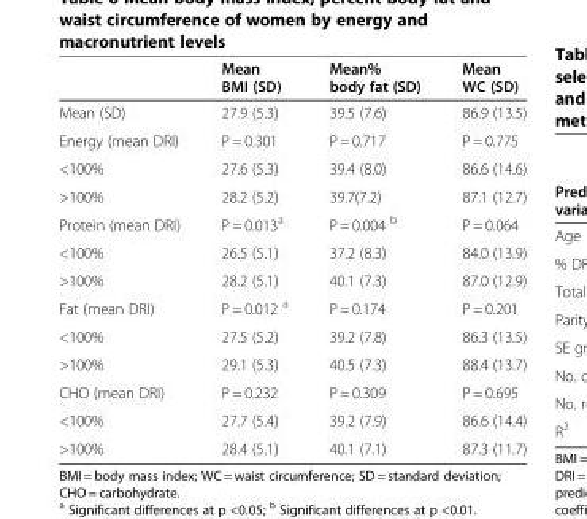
<table><thead><tr><td></td><td>Mean BMI (SD)</td><td>Mean% body fat (SD)</td><td>Mean WC (SD)</td></tr></thead><tbody><tr><td>Mean (SD)</td><td>27.9 (5.3)</td><td>39.5 (7.6)</td><td>86.9 (13.5)</td></tr><tr><td>Energy (mean DRI)</td><td>P = 0.301</td><td>P = 0.717</td><td>P = 0.775</td></tr><tr><td>&lt;100%</td><td>27.6 (5.3)</td><td>39.4 (8.0)</td><td>86.6 (14.6)</td></tr><tr><td>&gt;100%</td><td>28.2 (5.2)</td><td>39.7(7.2)</td><td>87.1 (12.7)</td></tr><tr><td>Protein (mean DRI)</td><td>P = 0.013<sup>a</sup></td><td>P = 0.004 <sup>b</sup></td><td>P = 0.064</td></tr><tr><td>&lt;100%</td><td>26.5 (5.1)</td><td>37.2 (8.3)</td><td>84.0 (13.9)</td></tr><tr><td>&gt;100%</td><td>28.2 (5.1)</td><td>40.1 (7.3)</td><td>87.0 (12.9)</td></tr><tr><td>Fat (mean DRI)</td><td>P = 0.012 <sup>a</sup></td><td>P = 0.174</td><td>P = 0.201</td></tr><tr><td>&lt;100%</td><td>27.5 (5.2)</td><td>39.2 (7.8)</td><td>86.3 (13.5)</td></tr><tr><td>&gt;100%</td><td>29.1 (5.3)</td><td>40.5 (7.3)</td><td>88.4 (13.7)</td></tr><tr><td>CHO (mean DRI)</td><td>P = 0.232</td><td>P = 0.309</td><td>P = 0.695</td></tr><tr><td>&lt;100%</td><td>27.7 (5.4)</td><td>39.2 (7.9)</td><td>86.6 (14.4)</td></tr><tr><td>&gt;100%</td><td>28.4 (5.1)</td><td>40.1 (7.1)</td><td>87.3 (11.7)</td></tr></tbody></table>